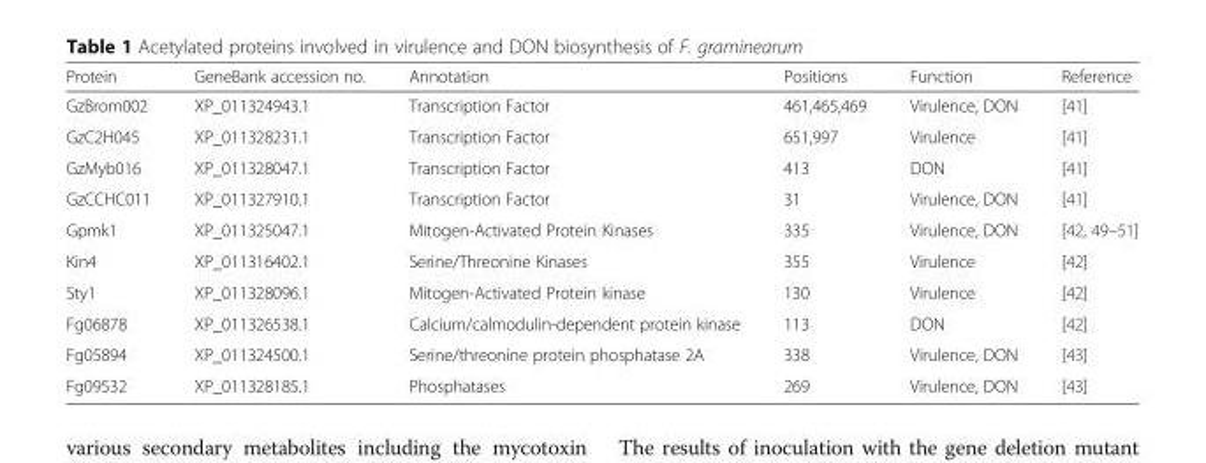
<table><thead><tr><td>Protein</td><td>GeneBank accession no.</td><td>Annotation</td><td>Positions</td><td>Function</td><td>Reference</td></tr></thead><tbody><tr><td>GzBrom002</td><td>XP_011324943.1</td><td>Transcription Factor</td><td>461,465,469</td><td>Virulence, DON</td><td>[41]</td></tr><tr><td>GzC2H045</td><td>XP_011328231.1</td><td>Transcription Factor</td><td>651,997</td><td>Virulence</td><td>[41]</td></tr><tr><td>GzMyb016</td><td>XP_011328047.1</td><td>Transcription Factor</td><td>413</td><td>DON</td><td>[41]</td></tr><tr><td>GzCCHC011</td><td>XP_011327910.1</td><td>Transcription Factor</td><td>31</td><td>Virulence, DON</td><td>[41]</td></tr><tr><td>Gpmk1</td><td>XP_011325047.1</td><td>Mitogen-Activated Protein Kinases</td><td>335</td><td>Virulence, DON</td><td>[42, 49–51]</td></tr><tr><td>Kin4</td><td>XP_011316402.1</td><td>Serine/Threonine Kinases</td><td>355</td><td>Virulence</td><td>[42]</td></tr><tr><td>Sty1</td><td>XP_011328096.1</td><td>Mitogen-Activated Protein kinase</td><td>130</td><td>Virulence</td><td>[42]</td></tr><tr><td>Fg06878</td><td>XP_011326538.1</td><td>Calcium/calmodulin-dependent protein kinase</td><td>113</td><td>DON</td><td>[42]</td></tr><tr><td>Fg05894</td><td>XP_011324500.1</td><td>Serine/threonine protein phosphatase 2A</td><td>338</td><td>Virulence, DON</td><td>[43]</td></tr><tr><td>Fg09532</td><td>XP_011328185.1</td><td>Phosphatases</td><td>269</td><td>Virulence, DON</td><td>[43]</td></tr></tbody></table>